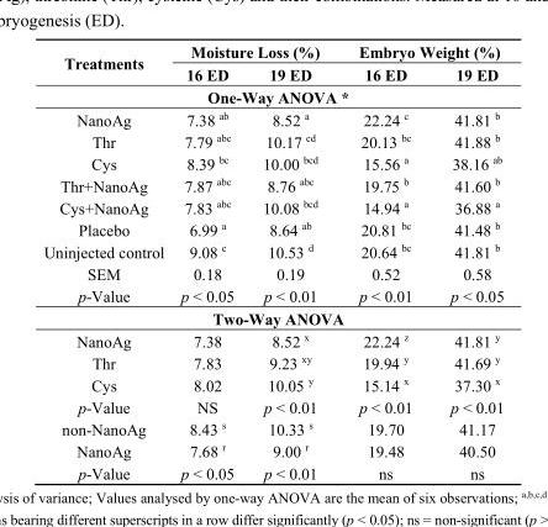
<table><thead><tr><td rowspan="2">Treatments</td><td colspan="2">Moisture Loss (%)</td><td colspan="2">Embryo Weight (%)</td></tr><tr><td>16 ED</td><td>19 ED</td><td>16 ED</td><td>19 ED</td></tr></thead><tbody><tr><td colspan="5">One-Way ANOVA *</td></tr><tr><td>NanoAg</td><td>7.38 <sup>ab</sup></td><td>8.52 <sup>a</sup></td><td>22.24 <sup>c</sup></td><td>41.81 <sup>b</sup></td></tr><tr><td>Thr</td><td>7.79 <sup>abc</sup></td><td>10.17 <sup>cd</sup></td><td>20.13 <sup>bc</sup></td><td>41.88 <sup>b</sup></td></tr><tr><td>Cys</td><td>8.39 <sup>bc</sup></td><td>10.00 <sup>bcd</sup></td><td>15.56 <sup>a</sup></td><td>38.16 <sup>ab</sup></td></tr><tr><td>Thr+NanoAg</td><td>7.87 <sup>abc</sup></td><td>8.76 <sup>abc</sup></td><td>19.75 <sup>b</sup></td><td>41.60 <sup>b</sup></td></tr><tr><td>Cys+NanoAg</td><td>7.83 <sup>abc</sup></td><td>10.08 <sup>bcd</sup></td><td>14.94 <sup>a</sup></td><td>36.88 <sup>a</sup></td></tr><tr><td>Placebo</td><td>6.99 <sup>a</sup></td><td>8.64 <sup>ab</sup></td><td>20.81 <sup>bc</sup></td><td>41.48 <sup>b</sup></td></tr><tr><td>Uninjected control</td><td>9.08 <sup>c</sup></td><td>10.53 <sup>d</sup></td><td>20.64 <sup>bc</sup></td><td>41.81 <sup>b</sup></td></tr><tr><td>SEM</td><td>0.18</td><td>0.19</td><td>0.52</td><td>0.58</td></tr><tr><td>p-Value</td><td>p &lt; 0.05</td><td>p &lt; 0.01</td><td>p &lt; 0.01</td><td>p &lt; 0.05</td></tr><tr><td colspan="5">Two-Way ANOVA</td></tr><tr><td>NanoAg</td><td>7.38</td><td>8.52 <sup>x</sup></td><td>22.24 <sup>z</sup></td><td>41.81 <sup>y</sup></td></tr><tr><td>Thr</td><td>7.83</td><td>9.23 <sup>xy</sup></td><td>19.94 <sup>y</sup></td><td>41.69 <sup>y</sup></td></tr><tr><td>Cys</td><td>8.02</td><td>10.05 <sup>y</sup></td><td>15.14 <sup>x</sup></td><td>37.30 <sup>x</sup></td></tr><tr><td>p-Value</td><td>NS</td><td>p &lt; 0.01</td><td>p &lt; 0.01</td><td>p &lt; 0.01</td></tr><tr><td>non-NanoAg</td><td>8.43 <sup>s</sup></td><td>10.33 <sup>s</sup></td><td>19.70</td><td>41.17</td></tr><tr><td>NanoAg</td><td>7.68 <sup>r</sup></td><td>9.00 <sup>r</sup></td><td>19.48</td><td>40.50</td></tr><tr><td>p-Value</td><td>p &lt; 0.05</td><td>p &lt; 0.01</td><td>ns</td><td>ns</td></tr></tbody></table>